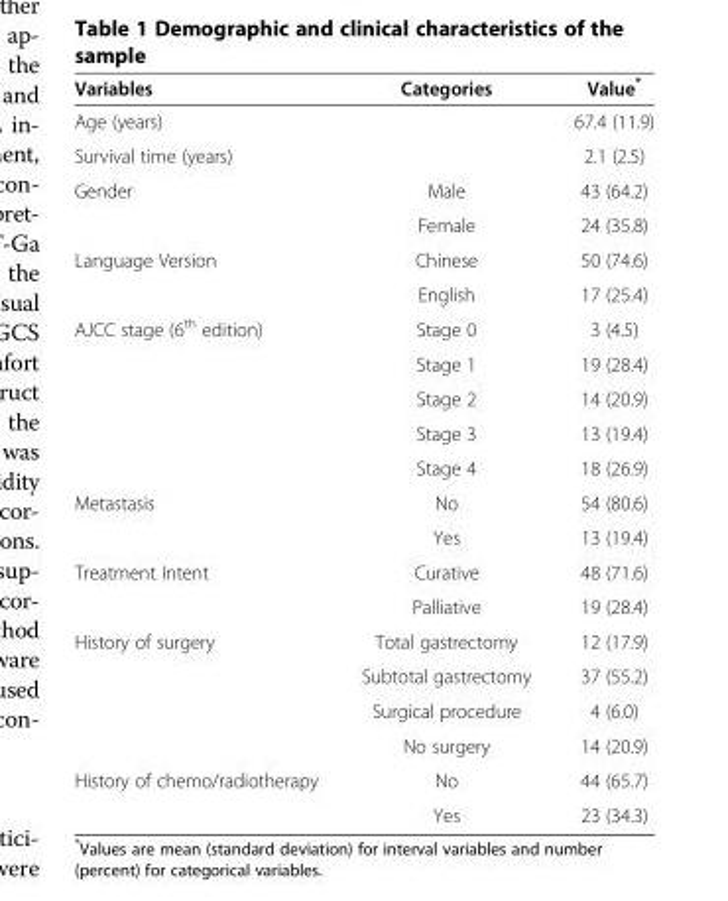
<table><thead><tr><td>Variables</td><td>Categories</td><td>Value*</td></tr></thead><tbody><tr><td>Age (years)</td><td></td><td>67.4 (11.9)</td></tr><tr><td>Survival time (years)</td><td></td><td>2.1 (2.5)</td></tr><tr><td rowspan="2">Gender</td><td>Male</td><td>43 (64.2)</td></tr><tr><td>Female</td><td>24 (35.8)</td></tr><tr><td rowspan="2">Language Version</td><td>Chinese</td><td>50 (74.6)</td></tr><tr><td>English</td><td>17 (25.4)</td></tr><tr><td rowspan="5">AJCC stage (6<sup>th</sup> edition)</td><td>Stage 0</td><td>3 (4.5)</td></tr><tr><td>Stage 1</td><td>19 (28.4)</td></tr><tr><td>Stage 2</td><td>14 (20.9)</td></tr><tr><td>Stage 3</td><td>13 (19.4)</td></tr><tr><td>Stage 4</td><td>18 (26.9)</td></tr><tr><td rowspan="2">Metastasis</td><td>No</td><td>54 (80.6)</td></tr><tr><td>Yes</td><td>13 (19.4)</td></tr><tr><td rowspan="2">Treatment Intent</td><td>Curative</td><td>48 (71.6)</td></tr><tr><td>Palliative</td><td>19 (28.4)</td></tr><tr><td rowspan="4">History of surgery</td><td>Total gastrectomy</td><td>12 (17.9)</td></tr><tr><td>Subtotal gastrectomy</td><td>37 (55.2)</td></tr><tr><td>Surgical procedure</td><td>4 (6.0)</td></tr><tr><td>No surgery</td><td>14 (20.9)</td></tr><tr><td rowspan="2">History of chemo/radiotherapy</td><td>No</td><td>44 (65.7)</td></tr><tr><td>Yes</td><td>23 (34.3)</td></tr></tbody></table>